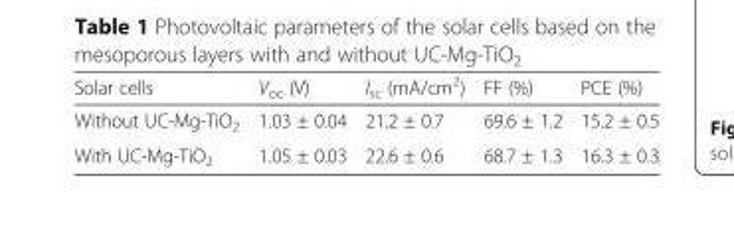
<table><thead><tr><td>Solar cells</td><td>V<sub>oc</sub> (V)</td><td>I<sub>sc</sub> (mA/cm<sup>2</sup>)</td><td>FF (%)</td><td>PCE (%)</td></tr></thead><tbody><tr><td>Without UC-Mg-TiO<sub>2</sub></td><td>1.03 ± 0.04</td><td>21.2 ± 0.7</td><td>69.6 ± 1.2</td><td>15.2 ± 0.5</td></tr><tr><td>With UC-Mg-TiO<sub>2</sub></td><td>1.05 ± 0.03</td><td>22.6 ± 0.6</td><td>68.7 ± 1.3</td><td>16.3 ± 0.3</td></tr></tbody></table>